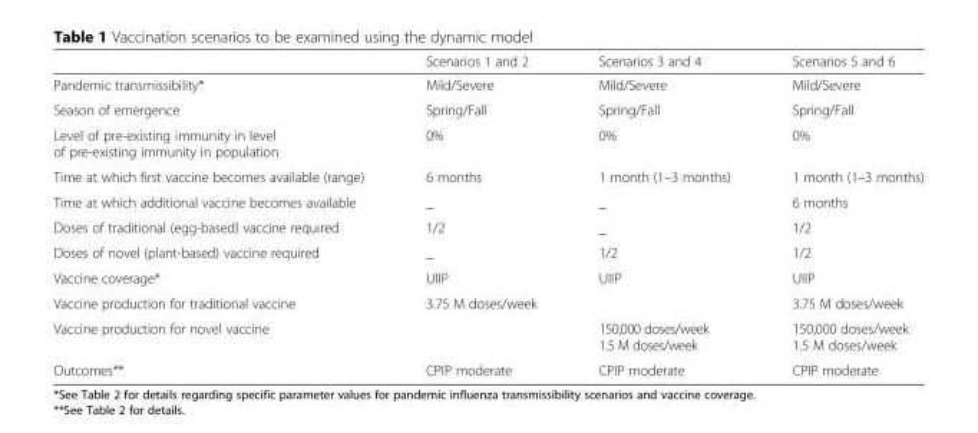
<table><thead><tr><td></td><td>Scenarios 1 and 2</td><td>Scenarios 3 and 4</td><td>Scenarios 5 and 6</td></tr></thead><tbody><tr><td>Pandemic transmissibility*</td><td>Mild/Severe</td><td>Mild/Severe</td><td>Mild/Severe</td></tr><tr><td>Season of emergence</td><td>Spring/Fall</td><td>Spring/Fall</td><td>Spring/Fall</td></tr><tr><td>Level of pre-existing immunity in level of pre-existing immunity in population</td><td>0%</td><td>0%</td><td>0%</td></tr><tr><td>Time at which first vaccine becomes available (range)</td><td>6 months</td><td>1 month (1–3 months)</td><td>1 month (1–3 months)</td></tr><tr><td>Time at which additional vaccine becomes available</td><td>_</td><td>_</td><td>6 months</td></tr><tr><td>Doses of traditional (egg-based) vaccine required</td><td>1/2</td><td>_</td><td>1/2</td></tr><tr><td>Doses of novel (plant-based) vaccine required</td><td>_</td><td>1/2</td><td>1/2</td></tr><tr><td>Vaccine coverage*</td><td>UIIP</td><td>UIIP</td><td>UIIP</td></tr><tr><td>Vaccine production for traditional vaccine</td><td>3.75 M doses/week</td><td></td><td>3.75 M doses/week</td></tr><tr><td>Vaccine production for novel vaccine</td><td></td><td>150,000 doses/week 1.5 M doses/week</td><td>150,000 doses/week 1.5 M doses/week</td></tr><tr><td>Outcomes**</td><td>CPIP moderate</td><td>CPIP moderate</td><td>CPIP moderate</td></tr></tbody></table>